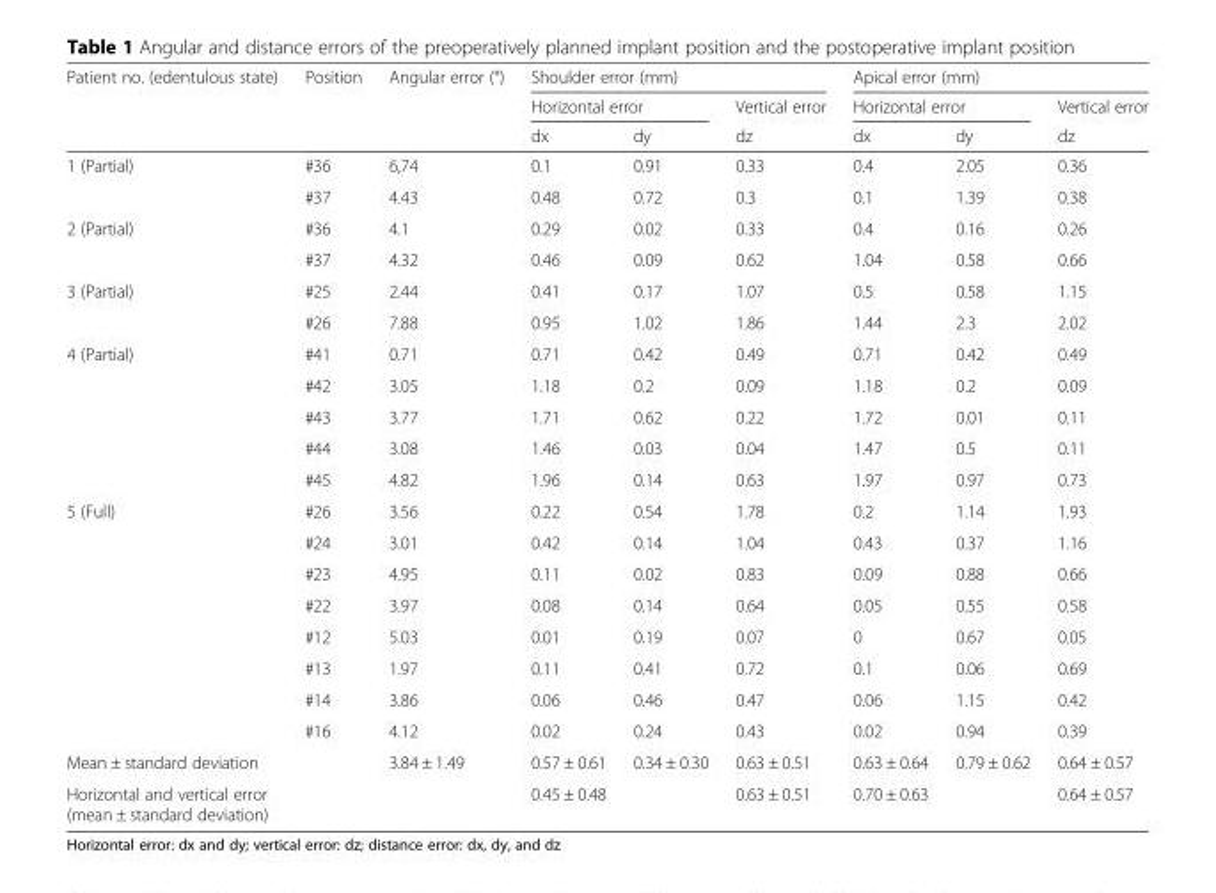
<table><thead><tr><td rowspan="3">Patient no. (edentulous state)</td><td rowspan="3">Position</td><td rowspan="3">Angular error (°)</td><td colspan="3">Shoulder error (mm)</td><td colspan="3">Apical error (mm)</td></tr><tr><td colspan="2">Horizontal error</td><td rowspan="2">Vertical error dz</td><td colspan="2">Horizontal error</td><td rowspan="2">Vertical error dz</td></tr><tr><td>dx</td><td>dy</td><td>dx</td><td>dy</td></tr></thead><tbody><tr><td rowspan="2">1 (Partial)</td><td>#36</td><td>6,74</td><td>0.1</td><td>0.91</td><td>0.33</td><td>0.4</td><td>2.05</td><td>0.36</td></tr><tr><td>#37</td><td>4.43</td><td>0.48</td><td>0.72</td><td>0.3</td><td>0.1</td><td>1.39</td><td>0.38</td></tr><tr><td rowspan="2">2 (Partial)</td><td>#36</td><td>4.1</td><td>0.29</td><td>0.02</td><td>0.33</td><td>0.4</td><td>0.16</td><td>0.26</td></tr><tr><td>#37</td><td>4.32</td><td>0.46</td><td>0.09</td><td>0.62</td><td>1.04</td><td>0.58</td><td>0.66</td></tr><tr><td rowspan="2">3 (Partial)</td><td>#25</td><td>2.44</td><td>0.41</td><td>0.17</td><td>1.07</td><td>0.5</td><td>0.58</td><td>1.15</td></tr><tr><td>#26</td><td>7.88</td><td>0.95</td><td>1.02</td><td>1.86</td><td>1.44</td><td>2.3</td><td>2.02</td></tr><tr><td rowspan="5">4 (Partial)</td><td>#41</td><td>0.71</td><td>0.71</td><td>0.42</td><td>0.49</td><td>0.71</td><td>0.42</td><td>0.49</td></tr><tr><td>#42</td><td>3.05</td><td>1.18</td><td>0.2</td><td>0.09</td><td>1.18</td><td>0.2</td><td>0.09</td></tr><tr><td>#43</td><td>3.77</td><td>1.71</td><td>0.62</td><td>0.22</td><td>1.72</td><td>0.01</td><td>0.11</td></tr><tr><td>#44</td><td>3.08</td><td>1.46</td><td>0.03</td><td>0.04</td><td>1.47</td><td>0.5</td><td>0.11</td></tr><tr><td>#45</td><td>4.82</td><td>1.96</td><td>0.14</td><td>0.63</td><td>1.97</td><td>0.97</td><td>0.73</td></tr><tr><td rowspan="8">5 (Full)</td><td>#26</td><td>3.56</td><td>0.22</td><td>0.54</td><td>1.78</td><td>0.2</td><td>1.14</td><td>1.93</td></tr><tr><td>#24</td><td>3.01</td><td>0.42</td><td>0.14</td><td>1.04</td><td>0.43</td><td>0.37</td><td>1.16</td></tr><tr><td>#23</td><td>4.95</td><td>0.11</td><td>0.02</td><td>0.83</td><td>0.09</td><td>0.88</td><td>0.66</td></tr><tr><td>#22</td><td>3.97</td><td>0.08</td><td>0.14</td><td>0.64</td><td>0.05</td><td>0.55</td><td>0.58</td></tr><tr><td>#12</td><td>5.03</td><td>0.01</td><td>0.19</td><td>0.07</td><td>0</td><td>0.67</td><td>0.05</td></tr><tr><td>#13</td><td>1.97</td><td>0.11</td><td>0.41</td><td>0.72</td><td>0.1</td><td>0.06</td><td>0.69</td></tr><tr><td>#14</td><td>3.86</td><td>0.06</td><td>0.46</td><td>0.47</td><td>0.06</td><td>1.15</td><td>0.42</td></tr><tr><td>#16</td><td>4.12</td><td>0.02</td><td>0.24</td><td>0.43</td><td>0.02</td><td>0.94</td><td>0.39</td></tr><tr><td colspan="2">Mean ± standard deviation</td><td>3.84 ± 1.49</td><td>0.57 ± 0.61</td><td>0.34 ± 0.30</td><td>0.63 ± 0.51</td><td>0.63 ± 0.64</td><td>0.79 ± 0.62</td><td>0.64 ± 0.57</td></tr><tr><td colspan="2">Horizontal and vertical error (mean ± standard deviation)</td><td></td><td colspan="2">0.45 ± 0.48</td><td>0.63 ± 0.51</td><td colspan="2">0.70 ± 0.63</td><td>0.64 ± 0.57</td></tr></tbody></table>